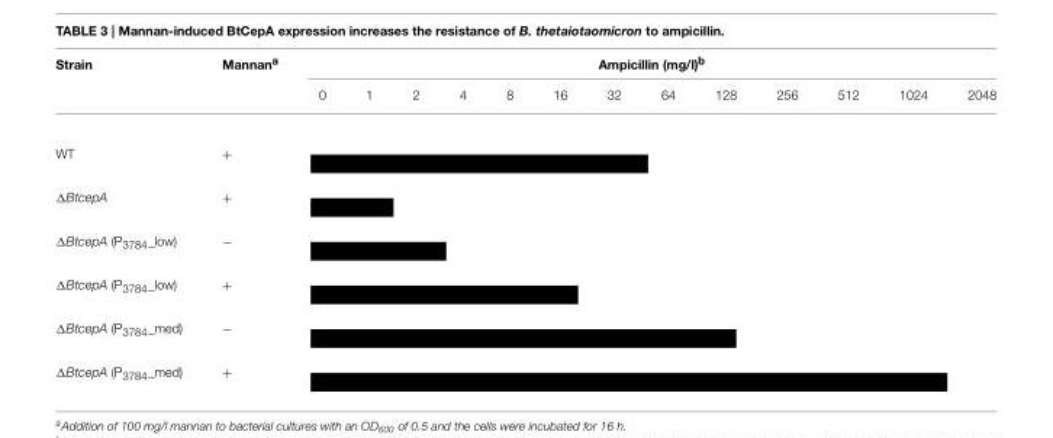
<table><thead><tr><td rowspan="2">Strain</td><td rowspan="2">Mannan<sup>a</sup></td><td colspan="13">Ampicillin (mg/l)<sup>b</sup></td></tr><tr><td>0</td><td>1</td><td>2</td><td>4</td><td>8</td><td>16</td><td>32</td><td>64</td><td>128</td><td>256</td><td>512</td><td>1024</td><td>2048</td></tr></thead><tbody><tr><td>WT</td><td>+</td><td></td><td></td><td></td><td></td><td></td><td></td><td></td><td></td><td></td><td></td><td></td><td></td><td></td></tr><tr><td>ΔBtcepA</td><td>+</td><td></td><td></td><td></td><td></td><td></td><td></td><td></td><td></td><td></td><td></td><td></td><td></td><td></td></tr><tr><td>ΔBtcepA (P3784_low)</td><td>−</td><td></td><td></td><td></td><td></td><td></td><td></td><td></td><td></td><td></td><td></td><td></td><td></td><td></td></tr><tr><td>ΔBtcepA (P3784_low)</td><td>+</td><td></td><td></td><td></td><td></td><td></td><td></td><td></td><td></td><td></td><td></td><td></td><td></td><td></td></tr><tr><td>ΔBtcepA (P3784_med)</td><td>−</td><td></td><td></td><td></td><td></td><td></td><td></td><td></td><td></td><td></td><td></td><td></td><td></td><td></td></tr><tr><td>ΔBtcepA (P3784_med)</td><td>+</td><td></td><td></td><td></td><td></td><td></td><td></td><td></td><td></td><td></td><td></td><td></td><td></td><td></td></tr></tbody></table>